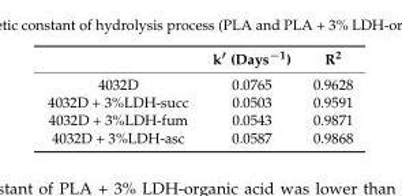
<table><thead><tr><td></td><td>k′ (Days<sup>−1</sup>)</td><td>R<sup>2</sup></td></tr></thead><tbody><tr><td>4032D</td><td>0.0765</td><td>0.9628</td></tr><tr><td>4032D + 3%LDH-succ</td><td>0.0503</td><td>0.9591</td></tr><tr><td>4032D + 3%LDH-fum</td><td>0.0543</td><td>0.9871</td></tr><tr><td>4032D + 3%LDH-asc</td><td>0.0587</td><td>0.9868</td></tr></tbody></table>